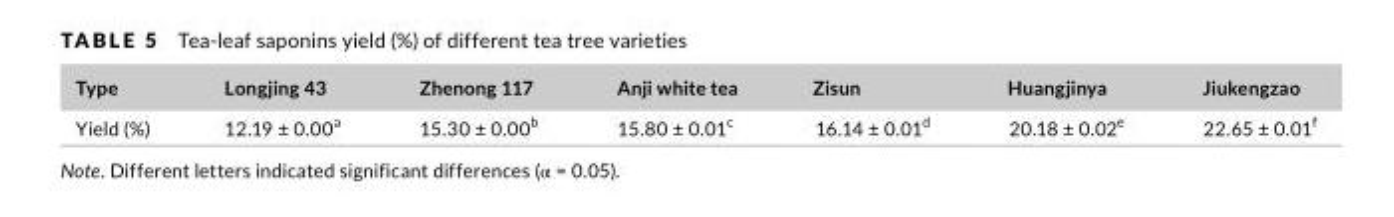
<table><thead><tr><td>Type</td><td>Longjing 43</td><td>Zhenong 117</td><td>Anji white tea</td><td>Zisun</td><td>Huangjinya</td><td>Jiukengzao</td></tr></thead><tbody><tr><td>Yield (%)</td><td>12.19 ± 0.00<sup>a</sup></td><td>15.30 ± 0.00<sup>b</sup></td><td>15.80 ± 0.01<sup>c</sup></td><td>16.14 ± 0.01<sup>d</sup></td><td>20.18 ± 0.02<sup>e</sup></td><td>22.65 ± 0.01<sup>f</sup></td></tr></tbody></table>